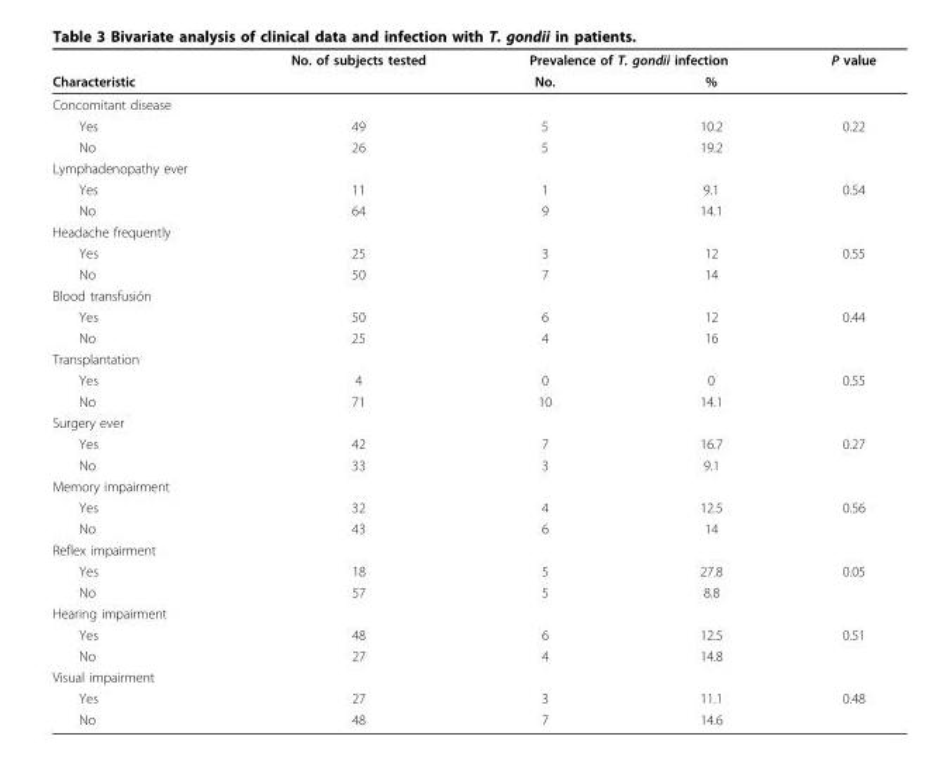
<table><thead><tr><td rowspan="2">Characteristic</td><td rowspan="2">No. of subjects tested</td><td colspan="2">Prevalence of T. gondii infection</td><td rowspan="2">P value</td></tr><tr><td>No.</td><td>%</td></tr></thead><tbody><tr><td colspan="5">Concomitant disease</td></tr><tr><td>Yes</td><td>49</td><td>5</td><td>10.2</td><td>0.22</td></tr><tr><td>No</td><td>26</td><td>5</td><td>19.2</td><td></td></tr><tr><td colspan="5">Lymphadenopathy ever</td></tr><tr><td>Yes</td><td>11</td><td>1</td><td>9.1</td><td>0.54</td></tr><tr><td>No</td><td>64</td><td>9</td><td>14.1</td><td></td></tr><tr><td colspan="5">Headache frequently</td></tr><tr><td>Yes</td><td>25</td><td>3</td><td>12</td><td>0.55</td></tr><tr><td>No</td><td>50</td><td>7</td><td>14</td><td></td></tr><tr><td colspan="5">Blood transfusión</td></tr><tr><td>Yes</td><td>50</td><td>6</td><td>12</td><td>0.44</td></tr><tr><td>No</td><td>25</td><td>4</td><td>16</td><td></td></tr><tr><td colspan="5">Transplantation</td></tr><tr><td>Yes</td><td>4</td><td>0</td><td>0</td><td>0.55</td></tr><tr><td>No</td><td>71</td><td>10</td><td>14.1</td><td></td></tr><tr><td colspan="5">Surgery ever</td></tr><tr><td>Yes</td><td>42</td><td>7</td><td>16.7</td><td>0.27</td></tr><tr><td>No</td><td>33</td><td>3</td><td>9.1</td><td></td></tr><tr><td colspan="5">Memory impairment</td></tr><tr><td>Yes</td><td>32</td><td>4</td><td>12.5</td><td>0.56</td></tr><tr><td>No</td><td>43</td><td>6</td><td>14</td><td></td></tr><tr><td colspan="5">Reflex impairment</td></tr><tr><td>Yes</td><td>18</td><td>5</td><td>27.8</td><td>0.05</td></tr><tr><td>No</td><td>57</td><td>5</td><td>8.8</td><td></td></tr><tr><td colspan="5">Hearing impairment</td></tr><tr><td>Yes</td><td>48</td><td>6</td><td>12.5</td><td>0.51</td></tr><tr><td>No</td><td>27</td><td>4</td><td>14.8</td><td></td></tr><tr><td colspan="5">Visual impairment</td></tr><tr><td>Yes</td><td>27</td><td>3</td><td>11.1</td><td>0.48</td></tr><tr><td>No</td><td>48</td><td>7</td><td>14.6</td><td></td></tr></tbody></table>